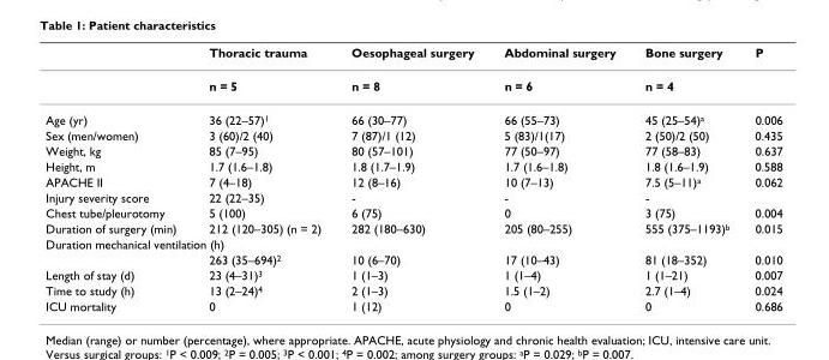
<table><thead><tr><td></td><td>Thoracic trauma</td><td>Oesophageal surgery</td><td>Abdominal surgery</td><td>Bone surgery</td><td>P</td></tr></thead><tbody><tr><td></td><td>n = 5</td><td>n = 8</td><td>n = 6</td><td>n = 4</td><td></td></tr><tr><td>Age (yr)</td><td>36 (22–57)<sup>1</sup></td><td>66 (30–77)</td><td>66 (55–73)</td><td>45 (25–54)<sup>a</sup></td><td>0.006</td></tr><tr><td>Sex (men/women)</td><td>3 (60)/2 (40)</td><td>7 (87)/1 (12)</td><td>5 (83)/1(17)</td><td>2 (50)/2 (50)</td><td>0.435</td></tr><tr><td>Weight, kg</td><td>85 (7–95)</td><td>80 (57–101)</td><td>77 (50–97)</td><td>77 (58–83)</td><td>0.637</td></tr><tr><td>Height, m</td><td>1.7 (1.6–1.8)</td><td>1.8 (1.7–1.9)</td><td>1.7 (1.6–1.8)</td><td>1.8 (1.6–1.9)</td><td>0.588</td></tr><tr><td>APACHE II</td><td>7 (4–18)</td><td>12 (8–16)</td><td>10 (7–13)</td><td>7.5 (5–11)<sup>a</sup></td><td>0.062</td></tr><tr><td>Injury severity score</td><td>22 (22–35)</td><td>-</td><td>-</td><td>-</td><td></td></tr><tr><td>Chest tube/pleurotomy</td><td>5 (100)</td><td>6 (75)</td><td>0</td><td>3 (75)</td><td>0.004</td></tr><tr><td>Duration of surgery (min)</td><td>212 (120–305) (n = 2)</td><td>282 (180–630)</td><td>205 (80–255)</td><td>555 (375–1193)<sup>b</sup></td><td>0.015</td></tr><tr><td colspan="6">Duration mechanical ventilation (h)</td></tr><tr><td></td><td>263 (35–694)<sup>2</sup></td><td>10 (6–70)</td><td>17 (10–43)</td><td>81 (18–352)</td><td>0.010</td></tr><tr><td>Length of stay (d)</td><td>23 (4–31)<sup>3</sup></td><td>1 (1–3)</td><td>1 (1–4)</td><td>1 (1–21)</td><td>0.007</td></tr><tr><td>Time to study (h)</td><td>13 (2–24)<sup>4</sup></td><td>2 (1–3)</td><td>1.5 (1–2)</td><td>2.7 (1–4)</td><td>0.024</td></tr><tr><td>ICU mortality</td><td>0</td><td>1 (12)</td><td>0</td><td>0</td><td>0.686</td></tr></tbody></table>